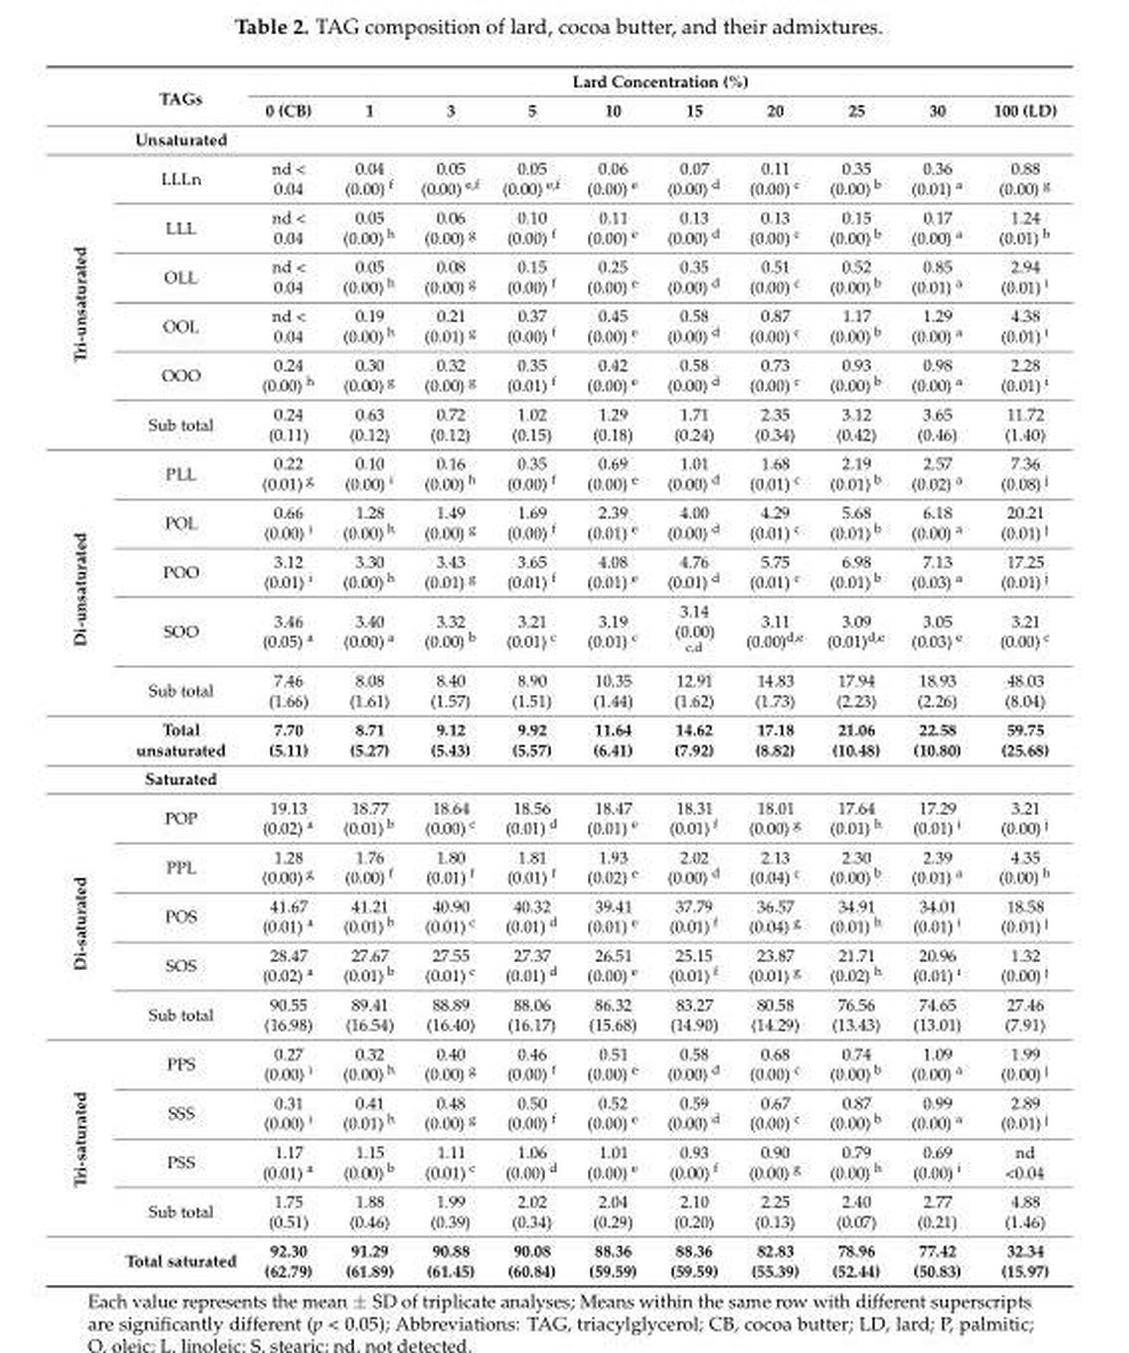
<table><thead><tr><td rowspan="3"></td><td rowspan="3">TAGs Unsaturated</td><td colspan="10">Lard Concentration (%)</td></tr><tr><td rowspan="2">0 (CB)</td><td rowspan="2">1</td><td rowspan="2">3</td><td rowspan="2">5</td><td rowspan="2">10</td><td rowspan="2">15</td><td rowspan="2">20</td><td rowspan="2">25</td><td rowspan="2">30</td><td rowspan="2">100 (LD)</td></tr><tr></tr></thead><tbody><tr><td rowspan="6">Tri-unsaturated</td><td>LLLn</td><td>nd &lt; 0.04</td><td>0.04 (0.00) <sup>f</sup></td><td>0.05 (0.00) <sup>e,f</sup></td><td>0.05 (0.00) <sup>e,f</sup></td><td>0.06 (0.00) <sup>e</sup></td><td>0.07 (0.00) <sup>d</sup></td><td>0.11 (0.00) <sup>c</sup></td><td>0.35 (0.00) <sup>b</sup></td><td>0.36 (0.01) <sup>a</sup></td><td>0.88 (0.00) <sup>g</sup></td></tr><tr><td>LLL</td><td>nd &lt; 0.04</td><td>0.05 (0.00) <sup>h</sup></td><td>0.06 (0.00) <sup>g</sup></td><td>0.10 (0.00) <sup>f</sup></td><td>0.11 (0.00) <sup>e</sup></td><td>0.13 (0.00) <sup>d</sup></td><td>0.13 (0.00) <sup>c</sup></td><td>0.15 (0.00) <sup>b</sup></td><td>0.17 (0.00) <sup>a</sup></td><td>1.24 (0.01) <sup>h</sup></td></tr><tr><td>OLL</td><td>nd &lt; 0.04</td><td>0.05 (0.00) <sup>h</sup></td><td>0.08 (0.00) <sup>g</sup></td><td>0.15 (0.00) <sup>f</sup></td><td>0.25 (0.00) <sup>e</sup></td><td>0.35 (0.00) <sup>d</sup></td><td>0.51 (0.00) <sup>c</sup></td><td>0.52 (0.00) <sup>b</sup></td><td>0.85 (0.01) <sup>a</sup></td><td>2.94 (0.01) <sup>i</sup></td></tr><tr><td>OOL</td><td>nd &lt; 0.04</td><td>0.19 (0.00) <sup>h</sup></td><td>0.21 (0.01) <sup>g</sup></td><td>0.37 (0.00) <sup>f</sup></td><td>0.45 (0.00) <sup>e</sup></td><td>0.58 (0.00) <sup>d</sup></td><td>0.87 (0.00) <sup>c</sup></td><td>1.17 (0.00) <sup>b</sup></td><td>1.29 (0.00) <sup>a</sup></td><td>4.38 (0.01) <sup>i</sup></td></tr><tr><td>OOO</td><td>0.24 (0.00) <sup>h</sup></td><td>0.30 (0.00) <sup>g</sup></td><td>0.32 (0.00) <sup>g</sup></td><td>0.35 (0.01) <sup>f</sup></td><td>0.42 (0.00) <sup>e</sup></td><td>0.58 (0.00) <sup>d</sup></td><td>0.73 (0.00) <sup>c</sup></td><td>0.93 (0.00) <sup>b</sup></td><td>0.98 (0.00) <sup>a</sup></td><td>2.28 (0.01) <sup>i</sup></td></tr><tr><td>Sub total</td><td>0.24 (0.11)</td><td>0.63 (0.12)</td><td>0.72 (0.12)</td><td>1.02 (0.15)</td><td>1.29 (0.18)</td><td>1.71 (0.24)</td><td>2.35 (0.34)</td><td>3.12 (0.42)</td><td>3.65 (0.46)</td><td>11.72 (1.40)</td></tr><tr><td rowspan="7">Di-unsaturated</td><td>PLL</td><td>0.22 (0.01) <sup>g</sup></td><td>0.10 (0.00) <sup>i</sup></td><td>0.16 (0.00) <sup>h</sup></td><td>0.35 (0.00) <sup>f</sup></td><td>0.69 (0.00) <sup>e</sup></td><td>1.01 (0.00) <sup>d</sup></td><td>1.68 (0.01) <sup>c</sup></td><td>2.19 (0.01) <sup>b</sup></td><td>2.57 (0.02) <sup>a</sup></td><td>7.36 (0.08) <sup>j</sup></td></tr><tr><td>POL</td><td>0.66 (0.00) <sup>i</sup></td><td>1.28 (0.00) <sup>h</sup></td><td>1.49 (0.00) <sup>g</sup></td><td>1.69 (0.00) <sup>f</sup></td><td>2.39 (0.01) <sup>e</sup></td><td>4.00 (0.00) <sup>d</sup></td><td>4.29 (0.01) <sup>c</sup></td><td>5.68 (0.01) <sup>b</sup></td><td>6.18 (0.00) <sup>a</sup></td><td>20.21 (0.01) <sup>j</sup></td></tr><tr><td>POO</td><td>3.12 (0.01) <sup>i</sup></td><td>3.30 (0.00) <sup>h</sup></td><td>3.43 (0.01) <sup>g</sup></td><td>3.65 (0.01) <sup>f</sup></td><td>4.08 (0.01) <sup>e</sup></td><td>4.76 (0.01) <sup>d</sup></td><td>5.75 (0.01) <sup>c</sup></td><td>6.98 (0.01) <sup>b</sup></td><td>7.13 (0.03) <sup>a</sup></td><td>17.25 (0.01) <sup>j</sup></td></tr><tr><td>SOO</td><td>3.46 (0.05) <sup>a</sup></td><td>3.40 (0.00) <sup>a</sup></td><td>3.32 (0.00) <sup>b</sup></td><td>3.21 (0.01) <sup>c</sup></td><td>3.19 (0.01) <sup>c</sup></td><td>3.14 (0.00) <sup>c,d</sup></td><td>3.11 (0.00)<sup>d,e</sup></td><td>3.09 (0.01)<sup>d,e</sup></td><td>3.05 (0.03) <sup>e</sup></td><td>3.21 (0.00) <sup>c</sup></td></tr><tr><td>Sub total</td><td>7.46 (1.66)</td><td>8.08 (1.61)</td><td>8.40 (1.57)</td><td>8.90 (1.51)</td><td>10.35 (1.44)</td><td>12.91 (1.62)</td><td>14.83 (1.73)</td><td>17.94 (2.23)</td><td>18.93 (2.26)</td><td>48.03 (8.04)</td></tr><tr><td>Total unsaturated</td><td>7.70 (5.11)</td><td>8.71 (5.27)</td><td>9.12 (5.43)</td><td>9.92 (5.57)</td><td>11.64 (6.41)</td><td>14.62 (7.92)</td><td>17.18 (8.82)</td><td>21.06 (10.48)</td><td>22.58 (10.80)</td><td>59.75 (25.68)</td></tr><tr><td>Saturated</td><td></td><td></td><td></td><td></td><td></td><td></td><td></td><td></td><td></td><td></td></tr><tr><td rowspan="5">Di-saturated</td><td>POP</td><td>19.13 (0.02) <sup>a</sup></td><td>18.77 (0.01) <sup>b</sup></td><td>18.64 (0.00) <sup>c</sup></td><td>18.56 (0.01) <sup>d</sup></td><td>18.47 (0.01) <sup>e</sup></td><td>18.31 (0.01) <sup>f</sup></td><td>18.01 (0.00) <sup>g</sup></td><td>17.64 (0.01) <sup>h</sup></td><td>17.29 (0.01) <sup>i</sup></td><td>3.21 (0.00) <sup>j</sup></td></tr><tr><td>PPL</td><td>1.28 (0.00) <sup>g</sup></td><td>1.76 (0.00) <sup>f</sup></td><td>1.80 (0.01) <sup>f</sup></td><td>1.81 (0.01) <sup>f</sup></td><td>1.93 (0.02) <sup>e</sup></td><td>2.02 (0.00) <sup>d</sup></td><td>2.13 (0.04) <sup>c</sup></td><td>2.30 (0.00) <sup>b</sup></td><td>2.39 (0.01) <sup>a</sup></td><td>4.35 (0.00) <sup>h</sup></td></tr><tr><td>POS</td><td>41.67 (0.01) <sup>a</sup></td><td>41.21 (0.01) <sup>b</sup></td><td>40.90 (0.01) <sup>c</sup></td><td>40.32 (0.01) <sup>d</sup></td><td>39.41 (0.01) <sup>e</sup></td><td>37.79 (0.01) <sup>f</sup></td><td>36.57 (0.04) <sup>g</sup></td><td>34.91 (0.01) <sup>h</sup></td><td>34.01 (0.01) <sup>i</sup></td><td>18.58 (0.01) <sup>j</sup></td></tr><tr><td>SOS</td><td>28.47 (0.02) <sup>a</sup></td><td>27.67 (0.01) <sup>b</sup></td><td>27.55 (0.01) <sup>c</sup></td><td>27.37 (0.01) <sup>d</sup></td><td>26.51 (0.00) <sup>e</sup></td><td>25.15 (0.01) <sup>f</sup></td><td>23.87 (0.01) <sup>g</sup></td><td>21.71 (0.02) <sup>h</sup></td><td>20.96 (0.01) <sup>i</sup></td><td>1.32 (0.00) <sup>j</sup></td></tr><tr><td>Sub total</td><td>90.55 (16.98)</td><td>89.41 (16.54)</td><td>88.89 (16.40)</td><td>88.06 (16.17)</td><td>86.32 (15.68)</td><td>83.27 (14.90)</td><td>80.58 (14.29)</td><td>76.56 (13.43)</td><td>74.65 (13.01)</td><td>27.46 (7.91)</td></tr><tr><td rowspan="5">Tri-saturated</td><td>PPS</td><td>0.27 (0.00) <sup>i</sup></td><td>0.32 (0.00) <sup>h</sup></td><td>0.40 (0.00) <sup>g</sup></td><td>0.46 (0.00) <sup>f</sup></td><td>0.51 (0.00) <sup>e</sup></td><td>0.58 (0.00) <sup>d</sup></td><td>0.68 (0.00) <sup>c</sup></td><td>0.74 (0.00) <sup>b</sup></td><td>1.09 (0.00) <sup>a</sup></td><td>1.99 (0.00) <sup>j</sup></td></tr><tr><td>SSS</td><td>0.31 (0.00) <sup>i</sup></td><td>0.41 (0.01) <sup>h</sup></td><td>0.48 (0.00) <sup>g</sup></td><td>0.50 (0.00) <sup>f</sup></td><td>0.52 (0.00) <sup>e</sup></td><td>0.59 (0.00) <sup>d</sup></td><td>0.67 (0.00) <sup>c</sup></td><td>0.87 (0.00) <sup>b</sup></td><td>0.99 (0.00) <sup>a</sup></td><td>2.89 (0.01) <sup>j</sup></td></tr><tr><td>PSS</td><td>1.17 (0.01) <sup>a</sup></td><td>1.15 (0.00) <sup>b</sup></td><td>1.11 (0.01) <sup>c</sup></td><td>1.06 (0.00) <sup>d</sup></td><td>1.01 (0.00) <sup>e</sup></td><td>0.93 (0.00) <sup>f</sup></td><td>0.90 (0.00) <sup>g</sup></td><td>0.79 (0.00) <sup>h</sup></td><td>0.69 (0.00) <sup>i</sup></td><td>nd &lt;0.04</td></tr><tr><td>Sub total</td><td>1.75 (0.51)</td><td>1.88 (0.46)</td><td>1.99 (0.39)</td><td>2.02 (0.34)</td><td>2.04 (0.29)</td><td>2.10 (0.20)</td><td>2.25 (0.13)</td><td>2.40 (0.07)</td><td>2.77 (0.21)</td><td>4.88 (1.46)</td></tr><tr><td>Total saturated</td><td>92.30 (62.79)</td><td>91.29 (61.89)</td><td>90.88 (61.45)</td><td>90.08 (60.84)</td><td>88.36 (59.59)</td><td>88.36 (59.59)</td><td>82.83 (55.39)</td><td>78.96 (52.44)</td><td>77.42 (50.83)</td><td>32.34 (15.97)</td></tr></tbody></table>